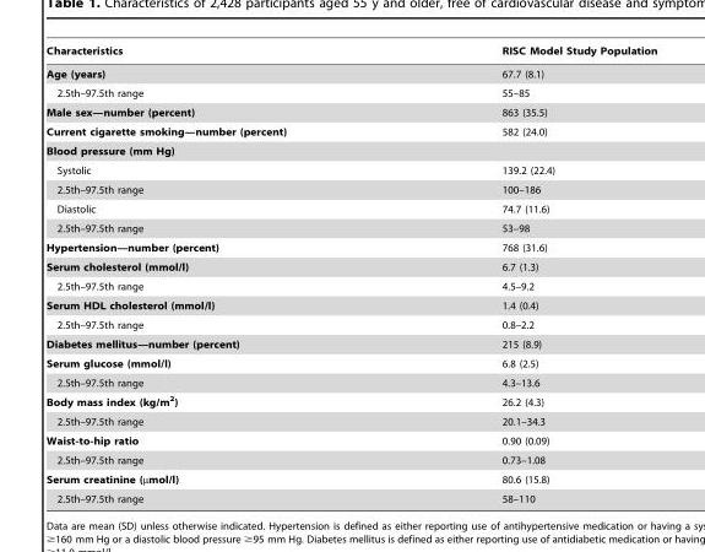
<table><thead><tr><td>Characteristics</td><td>RISC Model Study Population</td></tr></thead><tbody><tr><td>Age (years)</td><td>67.7 (8.1)</td></tr><tr><td>2.5th–97.5th range</td><td>55–85</td></tr><tr><td>Male sex—number (percent)</td><td>863 (35.5)</td></tr><tr><td>Current cigarette smoking—number (percent)</td><td>582 (24.0)</td></tr><tr><td colspan="2">Blood pressure (mm Hg)</td></tr><tr><td>Systolic</td><td>139.2 (22.4)</td></tr><tr><td>2.5th–97.5th range</td><td>100–186</td></tr><tr><td>Diastolic</td><td>74.7 (11.6)</td></tr><tr><td>2.5th–97.5th range</td><td>53–98</td></tr><tr><td>Hypertension—number (percent)</td><td>768 (31.6)</td></tr><tr><td>Serum cholesterol (mmol/l)</td><td>6.7 (1.3)</td></tr><tr><td>2.5th–97.5th range</td><td>4.5–9.2</td></tr><tr><td>Serum HDL cholesterol (mmol/l)</td><td>1.4 (0.4)</td></tr><tr><td>2.5th–97.5th range</td><td>0.8–2.2</td></tr><tr><td>Diabetes mellitus—number (percent)</td><td>215 (8.9)</td></tr><tr><td>Serum glucose (mmol/l)</td><td>6.8 (2.5)</td></tr><tr><td>2.5th–97.5th range</td><td>4.3–13.6</td></tr><tr><td>Body mass index (kg/m<sup>2</sup>)</td><td>26.2 (4.3)</td></tr><tr><td>2.5th–97.5th range</td><td>20.1–34.3</td></tr><tr><td>Waist-to-hip ratio</td><td>0.90 (0.09)</td></tr><tr><td>2.5th–97.5th range</td><td>0.73–1.08</td></tr><tr><td>Serum creatinine (µmol/l)</td><td>80.6 (15.8)</td></tr><tr><td>2.5th–97.5th range</td><td>58–110</td></tr></tbody></table>